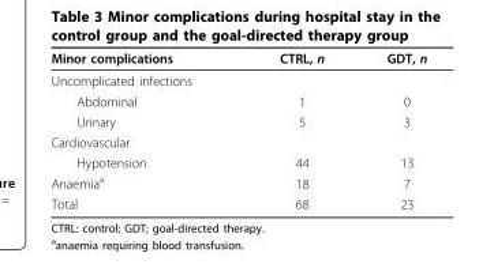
<table><thead><tr><td>Minor complications</td><td>CTRL, n</td><td>GDT, n</td></tr></thead><tbody><tr><td colspan="3">Uncomplicated infections</td></tr><tr><td>Abdominal</td><td>1</td><td>0</td></tr><tr><td>Urinary</td><td>5</td><td>3</td></tr><tr><td colspan="3">Cardiovascular</td></tr><tr><td>Hypotension</td><td>44</td><td>13</td></tr><tr><td>Anaemia<sup>a</sup></td><td>18</td><td>7</td></tr><tr><td>Total</td><td>68</td><td>23</td></tr></tbody></table>